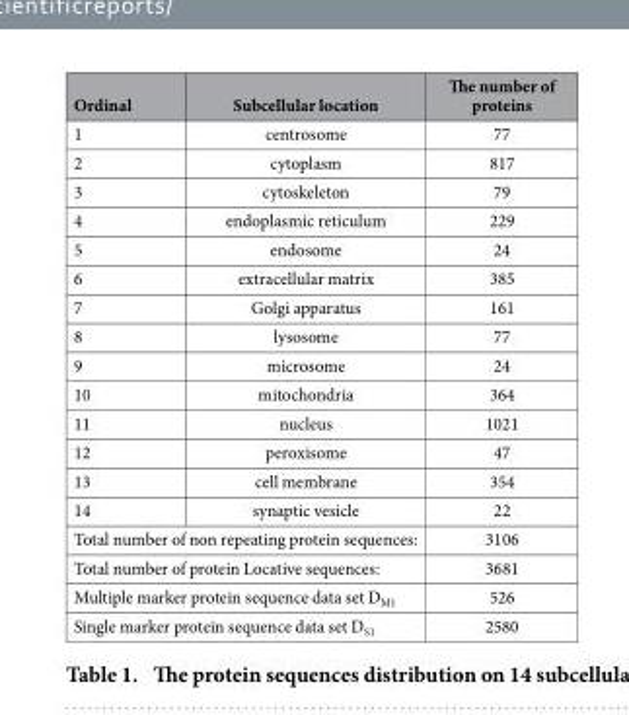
<table><thead><tr><td>Ordinal</td><td>Subcellular location</td><td>The number of proteins</td></tr></thead><tbody><tr><td>1</td><td>centrosome</td><td>77</td></tr><tr><td>2</td><td>cytoplasm</td><td>817</td></tr><tr><td>3</td><td>cytoskeleton</td><td>79</td></tr><tr><td>4</td><td>endoplasmic reticulum</td><td>229</td></tr><tr><td>5</td><td>endosome</td><td>24</td></tr><tr><td>6</td><td>extracellular matrix</td><td>385</td></tr><tr><td>7</td><td>Golgi apparatus</td><td>161</td></tr><tr><td>8</td><td>lysosome</td><td>77</td></tr><tr><td>9</td><td>microsome</td><td>24</td></tr><tr><td>10</td><td>mitochondria</td><td>364</td></tr><tr><td>11</td><td>nucleus</td><td>1021</td></tr><tr><td>12</td><td>peroxisome</td><td>47</td></tr><tr><td>13</td><td>cell membrane</td><td>354</td></tr><tr><td>14</td><td>synaptic vesicle</td><td>22</td></tr><tr><td colspan="2">Total number of non repeating protein sequences:</td><td>3106</td></tr><tr><td colspan="2">Total number of protein Locative sequences:</td><td>3681</td></tr><tr><td colspan="2">Multiple marker protein sequence data set D<sub>M1</sub></td><td>526</td></tr><tr><td colspan="2">Single marker protein sequence data set D<sub>S1</sub></td><td>2580</td></tr></tbody></table>